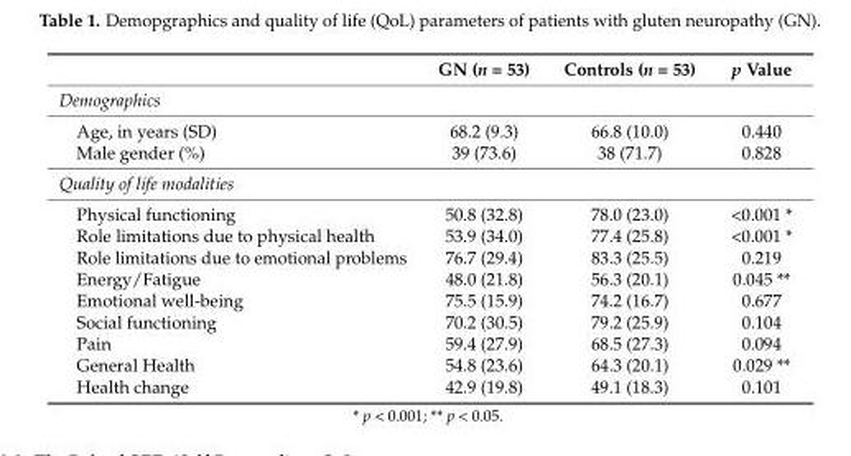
<table><thead><tr><td></td><td>GN (n = 53)</td><td>Controls (n = 53)</td><td>p Value</td></tr></thead><tbody><tr><td colspan="4">Demographics</td></tr><tr><td>Age, in years (SD)</td><td>68.2 (9.3)</td><td>66.8 (10.0)</td><td>0.440</td></tr><tr><td>Male gender (%)</td><td>39 (73.6)</td><td>38 (71.7)</td><td>0.828</td></tr><tr><td colspan="4">Quality of life modalities</td></tr><tr><td>Physical functioning</td><td>50.8 (32.8)</td><td>78.0 (23.0)</td><td>&lt;0.001 *</td></tr><tr><td>Role limitations due to physical health</td><td>53.9 (34.0)</td><td>77.4 (25.8)</td><td>&lt;0.001 *</td></tr><tr><td>Role limitations due to emotional problems</td><td>76.7 (29.4)</td><td>83.3 (25.5)</td><td>0.219</td></tr><tr><td>Energy/Fatigue</td><td>48.0 (21.8)</td><td>56.3 (20.1)</td><td>0.045 **</td></tr><tr><td>Emotional well-being</td><td>75.5 (15.9)</td><td>74.2 (16.7)</td><td>0.677</td></tr><tr><td>Social functioning</td><td>70.2 (30.5)</td><td>79.2 (25.9)</td><td>0.104</td></tr><tr><td>Pain</td><td>59.4 (27.9)</td><td>68.5 (27.3)</td><td>0.094</td></tr><tr><td>General Health</td><td>54.8 (23.6)</td><td>64.3 (20.1)</td><td>0.029 **</td></tr><tr><td>Health change</td><td>42.9 (19.8)</td><td>49.1 (18.3)</td><td>0.101</td></tr></tbody></table>